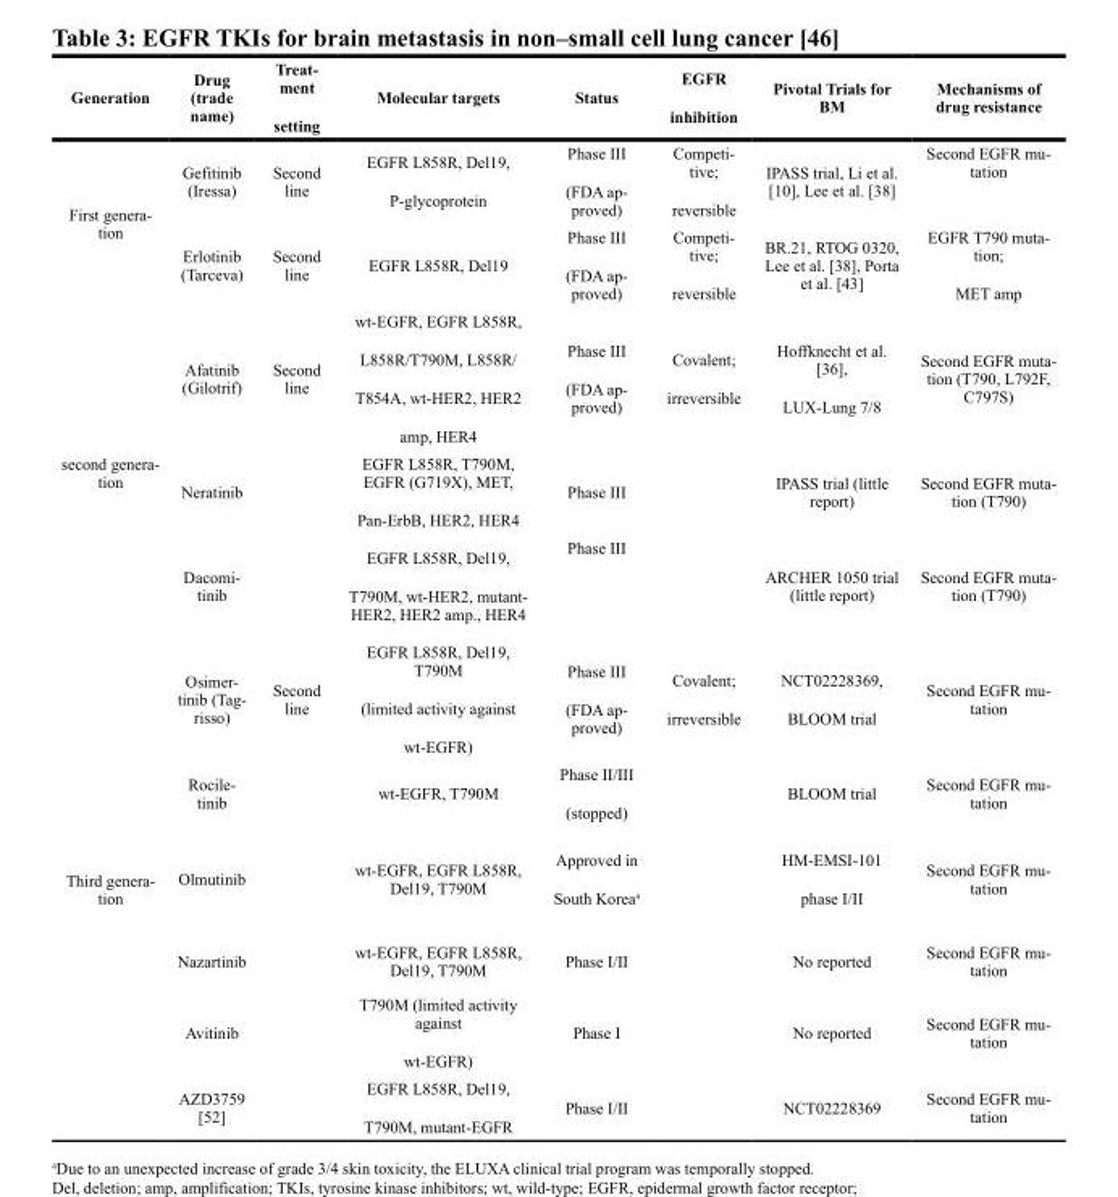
<table><thead><tr><td>Generation</td><td>Drug (trade name)</td><td>Treat- ment setting</td><td>Molecular targets</td><td>Status</td><td>EGFR inhibition</td><td>Pivotal Trials for BM</td><td>Mechanisms of drug resistance</td></tr></thead><tbody><tr><td rowspan="2">First genera- tion</td><td>Gefitinib (Iressa)</td><td>Second line</td><td>EGFR L858R, Del19, P-glycoprotein</td><td>Phase III (FDA ap- proved)</td><td>Competi- tive; reversible</td><td>IPASS trial, Li et al. [10], Lee et al. [38]</td><td>Second EGFR mu- tation</td></tr><tr><td>Erlotinib (Tarceva)</td><td>Second line</td><td>EGFR L858R, Del19</td><td>Phase III (FDA ap- proved)</td><td>Competi- tive; reversible</td><td>BR.21, RTOG 0320, Lee et al. [38], Porta et al. [43]</td><td>EGFR T790 muta- tion; MET amp</td></tr><tr><td rowspan="3">second genera- tion</td><td>Afatinib (Gilotrif)</td><td>Second line</td><td>wt-EGFR, EGFR L858R, L858R/T790M, L858R/ T854A, wt-HER2, HER2 amp, HER4</td><td>Phase III (FDA ap- proved)</td><td>Covalent; irreversible</td><td>Hoffknecht et al. [36], LUX-Lung 7/8</td><td>Second EGFR muta- tion (T790, L792F, C797S)</td></tr><tr><td>Neratinib</td><td></td><td>EGFR L858R, T790M, EGFR (G719X), MET, Pan-ErbB, HER2, HER4</td><td>Phase III</td><td></td><td>IPASS trial (little report)</td><td>Second EGFR muta- tion (T790)</td></tr><tr><td>Dacomi- tinib</td><td></td><td>EGFR L858R, Del19, T790M, wt-HER2, mutant- HER2, HER2 amp., HER4</td><td>Phase III</td><td></td><td>ARCHER 1050 trial (little report)</td><td>Second EGFR muta- tion (T790)</td></tr><tr><td rowspan="6">Third genera- tion</td><td>Osimer- tinib (Tag- risso)</td><td>Second line</td><td>EGFR L858R, Del19, T790M (limited activity against wt-EGFR)</td><td>Phase III (FDA ap- proved)</td><td>Covalent; irreversible</td><td>NCT02228369, BLOOM trial</td><td>Second EGFR mu- tation</td></tr><tr><td>Rocile- tinib</td><td></td><td>wt-EGFR, T790M</td><td>Phase II/III (stopped)</td><td></td><td>BLOOM trial</td><td>Second EGFR mu- tation</td></tr><tr><td>Olmutinib</td><td></td><td>wt-EGFR, EGFR L858R, Del19, T790M</td><td>Approved in South Korea<sup>a</sup></td><td></td><td>HM-EMSI-101 phase I/II</td><td>Second EGFR mu- tation</td></tr><tr><td>Nazartinib</td><td></td><td>wt-EGFR, EGFR L858R, Del19, T790M</td><td>Phase I/II</td><td></td><td>No reported</td><td>Second EGFR mu- tation</td></tr><tr><td>Avitinib</td><td></td><td>T790M (limited activity against wt-EGFR)</td><td>Phase I</td><td></td><td>No reported</td><td>Second EGFR mu- tation</td></tr><tr><td>AZD3759 [52]</td><td></td><td>EGFR L858R, Del19, T790M, mutant-EGFR</td><td>Phase I/II</td><td></td><td>NCT02228369</td><td>Second EGFR mu- tation</td></tr></tbody></table>